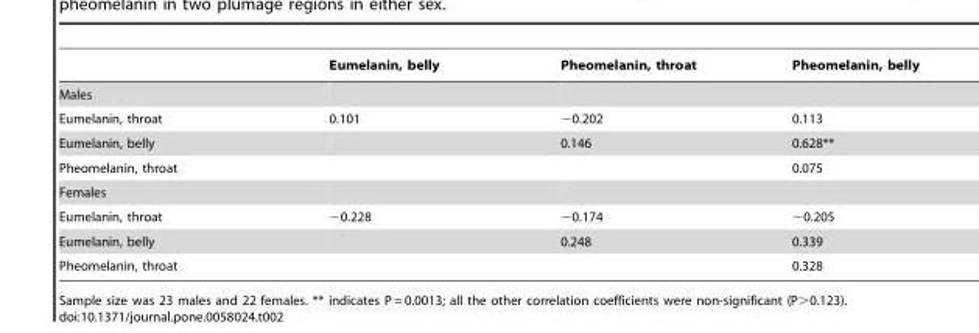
<table><thead><tr><td></td><td>Eumelanin, belly</td><td>Pheomelanin, throat</td><td>Pheomelanin, belly</td></tr></thead><tbody><tr><td colspan="4">Males</td></tr><tr><td>Eumelanin, throat</td><td>0.101</td><td>−0.202</td><td>0.113</td></tr><tr><td>Eumelanin, belly</td><td></td><td>0.146</td><td>0.628**</td></tr><tr><td>Pheomelanin, throat</td><td></td><td></td><td>0.075</td></tr><tr><td colspan="4">Females</td></tr><tr><td>Eumelanin, throat</td><td>−0.228</td><td>−0.174</td><td>−0.205</td></tr><tr><td>Eumelanin, belly</td><td></td><td>0.248</td><td>0.339</td></tr><tr><td>Pheomelanin, throat</td><td></td><td></td><td>0.328</td></tr></tbody></table>